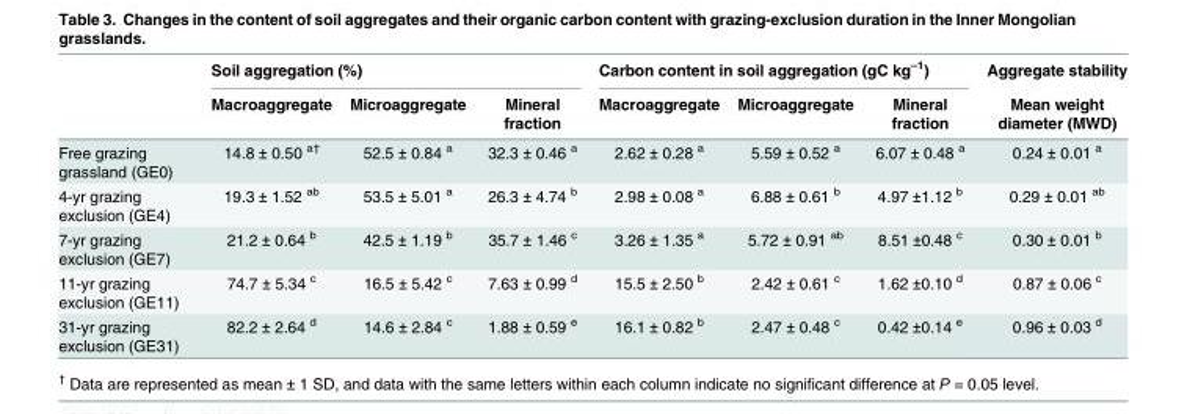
<table><thead><tr><td rowspan="2"></td><td colspan="3">Soil aggregation (%)</td><td colspan="3">Carbon content in soil aggregation (gC kg<sup>–1</sup>)</td><td rowspan="2">Aggregate stability Mean weight diameter (MWD)</td></tr><tr><td>Macroaggregate</td><td>Microaggregate</td><td>Mineral fraction</td><td>Macroaggregate</td><td>Microaggregate</td><td>Mineral fraction</td></tr></thead><tbody><tr><td>Free grazing grassland (GE0)</td><td>14.8 ± 0.50 <sup>a†</sup></td><td>52.5 ± 0.84 <sup>a</sup></td><td>32.3 ± 0.46 <sup>a</sup></td><td>2.62 ± 0.28 <sup>a</sup></td><td>5.59 ± 0.52 <sup>a</sup></td><td>6.07 ± 0.48 <sup>a</sup></td><td>0.24 ± 0.01 <sup>a</sup></td></tr><tr><td>4-yr grazing exclusion (GE4)</td><td>19.3 ± 1.52 <sup>ab</sup></td><td>53.5 ± 5.01 <sup>a</sup></td><td>26.3 ± 4.74 <sup>b</sup></td><td>2.98 ± 0.08 <sup>a</sup></td><td>6.88 ± 0.61 <sup>b</sup></td><td>4.97 ±1.12 <sup>b</sup></td><td>0.29 ± 0.01 <sup>ab</sup></td></tr><tr><td>7-yr grazing exclusion (GE7)</td><td>21.2 ± 0.64 <sup>b</sup></td><td>42.5 ± 1.19 <sup>b</sup></td><td>35.7 ± 1.46 <sup>c</sup></td><td>3.26 ± 1.35 <sup>a</sup></td><td>5.72 ± 0.91 <sup>ab</sup></td><td>8.51 ±0.48 <sup>c</sup></td><td>0.30 ± 0.01 <sup>b</sup></td></tr><tr><td>11-yr grazing exclusion (GE11)</td><td>74.7 ± 5.34 <sup>c</sup></td><td>16.5 ± 5.42 <sup>c</sup></td><td>7.63 ± 0.99 <sup>d</sup></td><td>15.5 ± 2.50 <sup>b</sup></td><td>2.42 ± 0.61 <sup>c</sup></td><td>1.62 ±0.10 <sup>d</sup></td><td>0.87 ± 0.06 <sup>c</sup></td></tr><tr><td>31-yr grazing exclusion (GE31)</td><td>82.2 ± 2.64 <sup>d</sup></td><td>14.6 ± 2.84 <sup>c</sup></td><td>1.88 ± 0.59 <sup>e</sup></td><td>16.1 ± 0.82 <sup>b</sup></td><td>2.47 ± 0.48 <sup>c</sup></td><td>0.42 ±0.14 <sup>e</sup></td><td>0.96 ± 0.03 <sup>d</sup></td></tr></tbody></table>